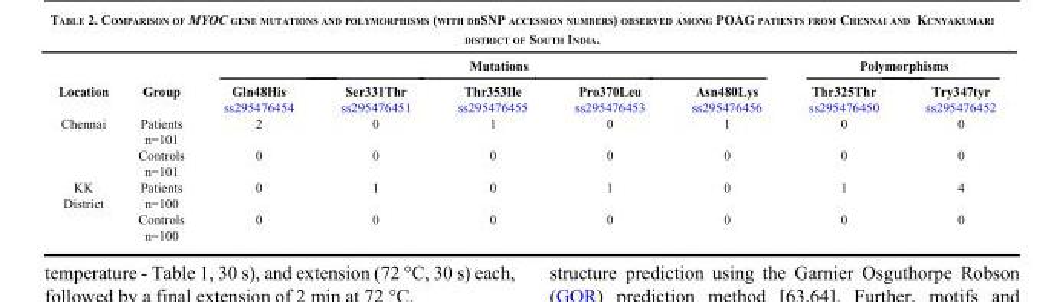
<table><thead><tr><td rowspan="2">Location</td><td rowspan="2">Group</td><td colspan="5">Mutations</td><td colspan="2">Polymorphisms</td></tr><tr><td>Gln48His ss295476454</td><td>Ser331Thr ss295476451</td><td>Thr353Ile ss295476455</td><td>Pro370Leu ss295476453</td><td>Asn480Lys ss295476456</td><td>Thr325Thr ss295476450</td><td>Try347tyr ss295476452</td></tr></thead><tbody><tr><td rowspan="2">Chennai</td><td>Patients n=101</td><td>2</td><td>0</td><td>1</td><td>0</td><td>1</td><td>0</td><td>0</td></tr><tr><td>Controls n=101</td><td>0</td><td>0</td><td>0</td><td>0</td><td>0</td><td>0</td><td>0</td></tr><tr><td rowspan="2">KK District</td><td>Patients n=100</td><td>0</td><td>1</td><td>0</td><td>1</td><td>0</td><td>1</td><td>4</td></tr><tr><td>Controls n=100</td><td>0</td><td>0</td><td>0</td><td>0</td><td>0</td><td>0</td><td>0</td></tr></tbody></table>